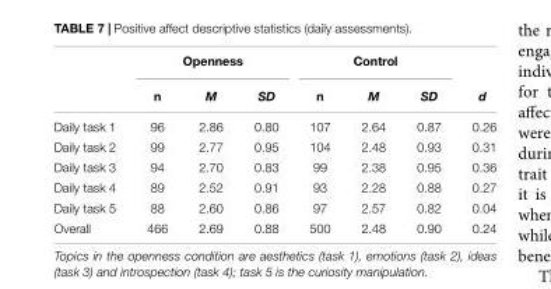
<table><thead><tr><td rowspan="2"></td><td colspan="3">Openness</td><td colspan="3">Control</td><td rowspan="2">d</td></tr><tr><td>n</td><td>M</td><td>SD</td><td>n</td><td>M</td><td>SD</td></tr></thead><tbody><tr><td>Daily task 1</td><td>96</td><td>2.86</td><td>0.80</td><td>107</td><td>2.64</td><td>0.87</td><td>0.26</td></tr><tr><td>Daily task 2</td><td>99</td><td>2.77</td><td>0.95</td><td>104</td><td>2.48</td><td>0.93</td><td>0.31</td></tr><tr><td>Daily task 3</td><td>94</td><td>2.70</td><td>0.83</td><td>99</td><td>2.38</td><td>0.95</td><td>0.36</td></tr><tr><td>Daily task 4</td><td>89</td><td>2.52</td><td>0.91</td><td>93</td><td>2.28</td><td>0.88</td><td>0.27</td></tr><tr><td>Daily task 5</td><td>88</td><td>2.60</td><td>0.86</td><td>97</td><td>2.57</td><td>0.82</td><td>0.04</td></tr><tr><td>Overall</td><td>466</td><td>2.69</td><td>0.88</td><td>500</td><td>2.48</td><td>0.90</td><td>0.24</td></tr></tbody></table>